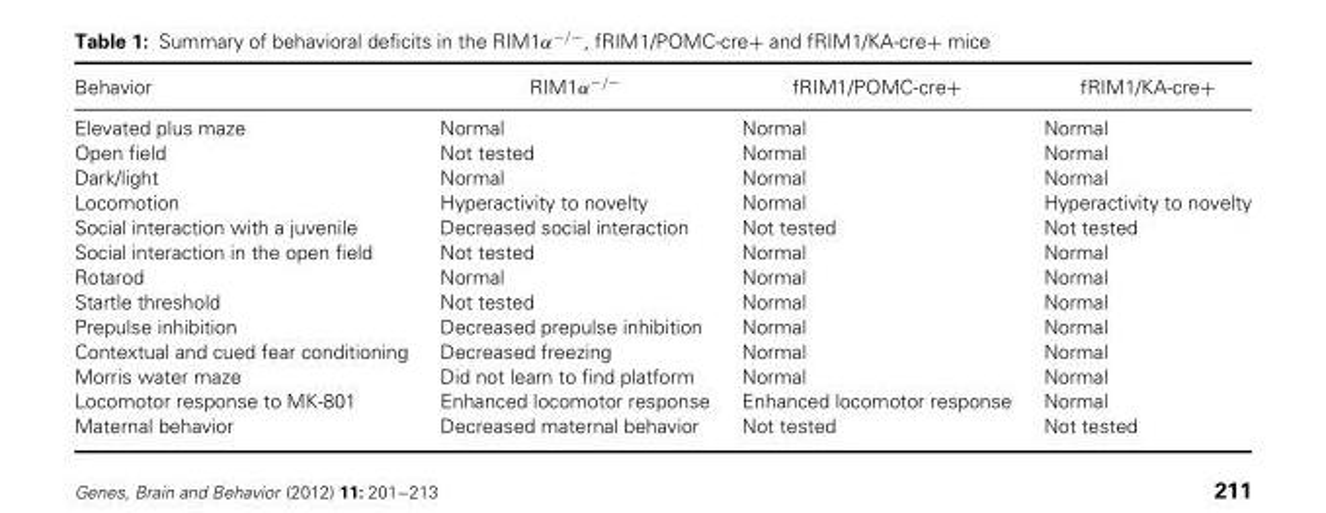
<table><thead><tr><td>Behavior</td><td>RIM1α<sup>−/−</sup></td><td>fRIM1/POMC-cre+</td><td>fRIM1/KA-cre+</td></tr></thead><tbody><tr><td>Elevated plus maze</td><td>Normal</td><td>Normal</td><td>Normal</td></tr><tr><td>Open field</td><td>Not tested</td><td>Normal</td><td>Normal</td></tr><tr><td>Dark/light</td><td>Normal</td><td>Normal</td><td>Normal</td></tr><tr><td>Locomotion</td><td>Hyperactivity to novelty</td><td>Normal</td><td>Hyperactivity to novelty</td></tr><tr><td>Social interaction with a juvenile</td><td>Decreased social interaction</td><td>Not tested</td><td>Not tested</td></tr><tr><td>Social interaction in the open field</td><td>Not tested</td><td>Normal</td><td>Normal</td></tr><tr><td>Rotarod</td><td>Normal</td><td>Normal</td><td>Normal</td></tr><tr><td>Startle threshold</td><td>Not tested</td><td>Normal</td><td>Normal</td></tr><tr><td>Prepulse inhibition</td><td>Decreased prepulse inhibition</td><td>Normal</td><td>Normal</td></tr><tr><td>Contextual and cued fear conditioning</td><td>Decreased freezing</td><td>Normal</td><td>Normal</td></tr><tr><td>Morris water maze</td><td>Did not learn to find platform</td><td>Normal</td><td>Normal</td></tr><tr><td>Locomotor response to MK-801</td><td>Enhanced locomotor response</td><td>Enhanced locomotor response</td><td>Normal</td></tr><tr><td>Maternal behavior</td><td>Decreased maternal behavior</td><td>Not tested</td><td>Not tested</td></tr></tbody></table>